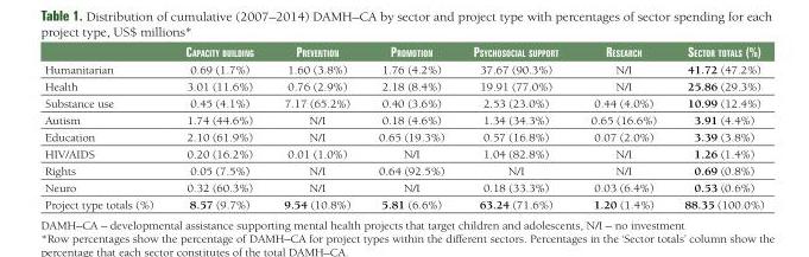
<table><thead><tr><td></td><td>CapaCity building</td><td>prevention</td><td>promotion</td><td>psyChosoCial support</td><td>researCh</td><td>seCtor totals (%)</td></tr></thead><tbody><tr><td>Humanitarian</td><td>0.69 (1.7%)</td><td>1.60 (3.8%)</td><td>1.76 (4.2%)</td><td>37.67 (90.3%)</td><td>N/I</td><td>41.72 (47.2%)</td></tr><tr><td>Health</td><td>3.01 (11.6%)</td><td>0.76 (2.9%)</td><td>2.18 (8.4%)</td><td>19.91 (77.0%)</td><td>N/I</td><td>25.86 (29.3%)</td></tr><tr><td>Substance use</td><td>0.45 (4.1%)</td><td>7.17 (65.2%)</td><td>0.40 (3.6%)</td><td>2.53 (23.0%)</td><td>0.44 (4.0%)</td><td>10.99 (12.4%)</td></tr><tr><td>Autism</td><td>1.74 (44.6%)</td><td>N/I</td><td>0.18 (4.6%)</td><td>1.34 (34.3%)</td><td>0.65 (16.6%)</td><td>3.91 (4.4%)</td></tr><tr><td>Education</td><td>2.10 (61.9%)</td><td>N/I</td><td>0.65 (19.3%)</td><td>0.57 (16.8%)</td><td>0.07 (2.0%)</td><td>3.39 (3.8%)</td></tr><tr><td>HIV/AIDS</td><td>0.20 (16.2%)</td><td>0.01 (1.0%)</td><td>N/I</td><td>1.04 (82.8%)</td><td>N/I</td><td>1.26 (1.4%)</td></tr><tr><td>Rights</td><td>0.05 (7.5%)</td><td>N/I</td><td>0.64 (92.5%)</td><td>N/I</td><td>N/I</td><td>0.69 (0.8%)</td></tr><tr><td>Neuro</td><td>0.32 (60.3%)</td><td>N/I</td><td>N/I</td><td>0.18 (33.3%)</td><td>0.03 (6.4%)</td><td>0.53 (0.6%)</td></tr><tr><td>Project type totals (%)</td><td>8.57 (9.7%)</td><td>9.54 (10.8%)</td><td>5.81 (6.6%)</td><td>63.24 (71.6%)</td><td>1.20 (1.4%)</td><td>88.35 (100.0%)</td></tr></tbody></table>